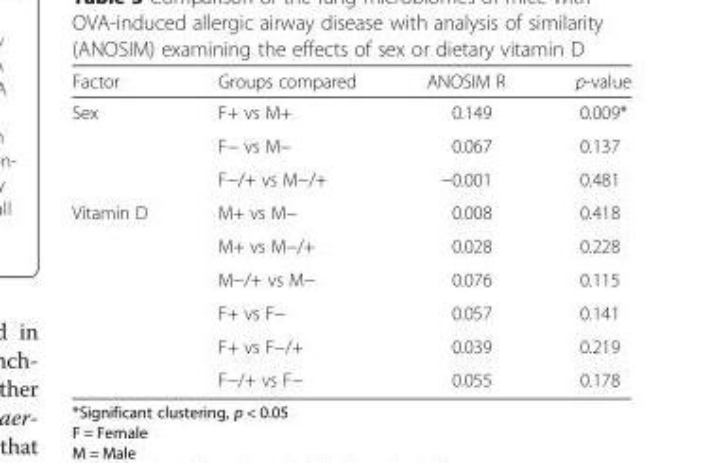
<table><thead><tr><td>Factor</td><td>Groups compared</td><td>ANOSIM R</td><td>p-value</td></tr></thead><tbody><tr><td rowspan="3">Sex</td><td>F+ vs M+</td><td>0.149</td><td>0.009*</td></tr><tr><td>F− vs M−</td><td>0.067</td><td>0.137</td></tr><tr><td>F−/+ vs M−/+</td><td>−0.001</td><td>0.481</td></tr><tr><td rowspan="6">Vitamin D</td><td>M+ vs M−</td><td>0.008</td><td>0.418</td></tr><tr><td>M+ vs M−/+</td><td>0.028</td><td>0.228</td></tr><tr><td>M−/+ vs M−</td><td>0.076</td><td>0.115</td></tr><tr><td>F+ vs F−</td><td>0.057</td><td>0.141</td></tr><tr><td>F+ vs F−/+</td><td>0.039</td><td>0.219</td></tr><tr><td>F−/+ vs F−</td><td>0.055</td><td>0.178</td></tr></tbody></table>